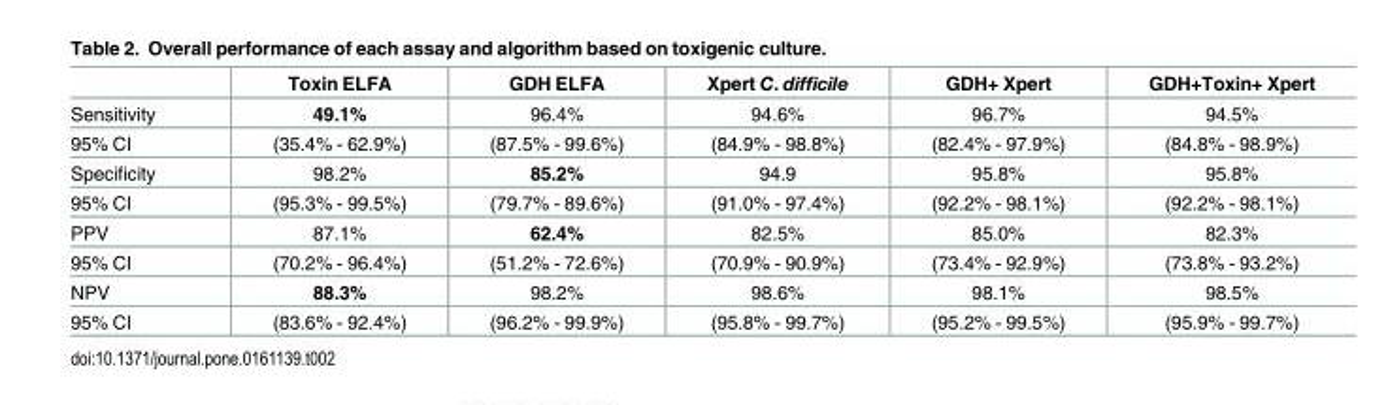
<table><thead><tr><td></td><td>Toxin ELFA</td><td>GDH ELFA</td><td>Xpert C. difficile</td><td>GDH+ Xpert</td><td>GDH+Toxin+ Xpert</td></tr></thead><tbody><tr><td>Sensitivity</td><td>49.1%</td><td>96.4%</td><td>94.6%</td><td>96.7%</td><td>94.5%</td></tr><tr><td>95% CI</td><td>(35.4% - 62.9%)</td><td>(87.5% - 99.6%)</td><td>(84.9% - 98.8%)</td><td>(82.4% - 97.9%)</td><td>(84.8% - 98.9%)</td></tr><tr><td>Specificity</td><td>98.2%</td><td>85.2%</td><td>94.9</td><td>95.8%</td><td>95.8%</td></tr><tr><td>95% CI</td><td>(95.3% - 99.5%)</td><td>(79.7% - 89.6%)</td><td>(91.0% - 97.4%)</td><td>(92.2% - 98.1%)</td><td>(92.2% - 98.1%)</td></tr><tr><td>PPV</td><td>87.1%</td><td>62.4%</td><td>82.5%</td><td>85.0%</td><td>82.3%</td></tr><tr><td>95% CI</td><td>(70.2% - 96.4%)</td><td>(51.2% - 72.6%)</td><td>(70.9% - 90.9%)</td><td>(73.4% - 92.9%)</td><td>(73.8% - 93.2%)</td></tr><tr><td>NPV</td><td>88.3%</td><td>98.2%</td><td>98.6%</td><td>98.1%</td><td>98.5%</td></tr><tr><td>95% CI</td><td>(83.6% - 92.4%)</td><td>(96.2% - 99.9%)</td><td>(95.8% - 99.7%)</td><td>(95.2% - 99.5%)</td><td>(95.9% - 99.7%)</td></tr></tbody></table>